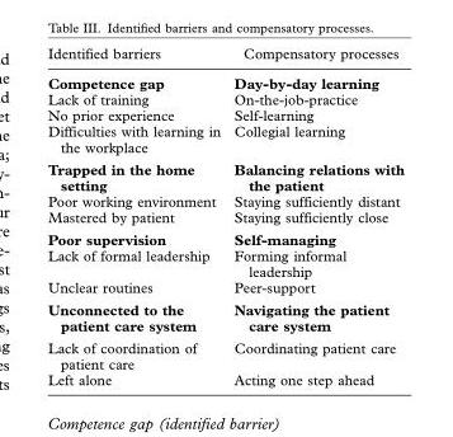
<table><thead><tr><td>Identified barriers</td><td>Compensatory processes</td></tr></thead><tbody><tr><td>Competence gap</td><td>Day-by-day learning</td></tr><tr><td>Lack of training</td><td>On-the-job-practice</td></tr><tr><td>No prior experience</td><td>Self-learning</td></tr><tr><td>Difficulties with learning in the workplace</td><td>Collegial learning</td></tr><tr><td>Trapped in the home setting</td><td>Balancing relations with the patient</td></tr><tr><td>Poor working environment</td><td>Staying sufficiently distant</td></tr><tr><td>Mastered by patient</td><td>Staying sufficiently close</td></tr><tr><td>Poor supervision</td><td>Self-managing</td></tr><tr><td>Lack of formal leadership</td><td>Forming informal leadership</td></tr><tr><td>Unclear routines</td><td>Peer-support</td></tr><tr><td>Unconnected to the patient care system</td><td>Navigating the patient care system</td></tr><tr><td>Lack of coordination of patient care</td><td>Coordinating patient care</td></tr><tr><td>Left alone</td><td>Acting one step ahead</td></tr></tbody></table>